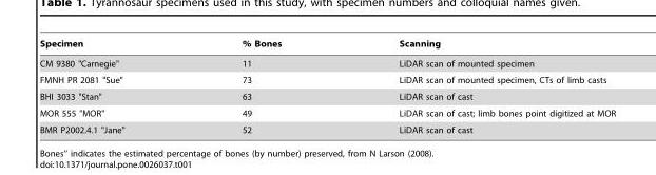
<table><thead><tr><td>Specimen</td><td>% Bones</td><td>Scanning</td></tr></thead><tbody><tr><td>CM 9380 &quot;Carnegie&quot;</td><td>11</td><td>LiDAR scan of mounted specimen</td></tr><tr><td>FMNH PR 2081 &quot;Sue&quot;</td><td>73</td><td>LiDAR scan of mounted specimen, CTs of limb casts</td></tr><tr><td>BHI 3033 &quot;Stan&quot;</td><td>63</td><td>LiDAR scan of cast</td></tr><tr><td>MOR 555 &quot;MOR&quot;</td><td>49</td><td>LiDAR scan of cast; limb bones point digitized at MOR</td></tr><tr><td>BMR P2002.4.1 &quot;Jane&quot;</td><td>52</td><td>LiDAR scan of cast</td></tr></tbody></table>